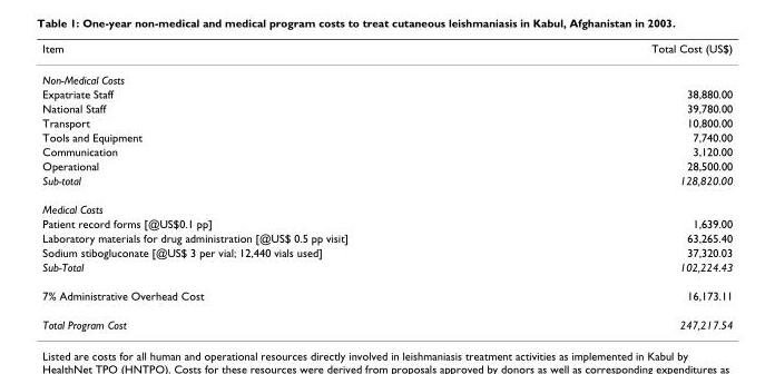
<table><thead><tr><td>Item</td><td>Total Cost (US$)</td></tr></thead><tbody><tr><td colspan="2">Non-Medical Costs</td></tr><tr><td>Expatriate Staff</td><td>38,880.00</td></tr><tr><td>National Staff</td><td>39,780.00</td></tr><tr><td>Transport</td><td>10,800.00</td></tr><tr><td>Tools and Equipment</td><td>7,740.00</td></tr><tr><td>Communication</td><td>3,120.00</td></tr><tr><td>Operational</td><td>28,500.00</td></tr><tr><td>Sub-total</td><td>128,820.00</td></tr><tr><td colspan="2">Medical Costs</td></tr><tr><td>Patient record forms [@US$0.1 pp]</td><td>1,639.00</td></tr><tr><td>Laboratory materials for drug administration [@US$ 0.5 pp visit]</td><td>63,265.40</td></tr><tr><td>Sodium stibogluconate [@US$ 3 per vial; 12,440 vials used]</td><td>37,320.03</td></tr><tr><td>Sub-Total</td><td>102,224.43</td></tr><tr><td>7% Administrative Overhead Cost</td><td>16,173.11</td></tr><tr><td>Total Program Cost</td><td>247,217.54</td></tr></tbody></table>